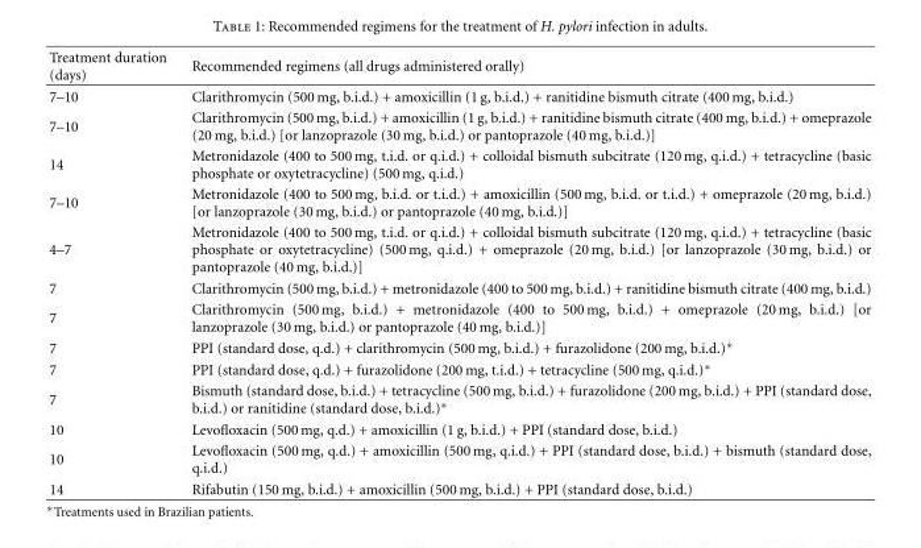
<table><thead><tr><td>Treatment duration (days)</td><td>Recommended regimens (all drugs administered orally)</td></tr></thead><tbody><tr><td>7–10</td><td>Clarithromycin (500 mg, b.i.d.) + amoxicillin (1 g, b.i.d.) + ranitidine bismuth citrate (400 mg, b.i.d.)</td></tr><tr><td>7–10</td><td>Clarithromycin (500 mg, b.i.d.) + amoxicillin (1 g, b.i.d.) + ranitidine bismuth citrate (400 mg, b.i.d.) + omeprazole (20 mg, b.i.d.) [or lanzoprazole (30 mg, b.i.d.) or pantoprazole (40 mg, b.i.d.)]</td></tr><tr><td>14</td><td>Metronidazole (400 to 500 mg, t.i.d. or q.i.d.) + colloidal bismuth subcitrate (120 mg, q.i.d.) + tetracycline (basic phosphate or oxytetracycline) (500 mg, q.i.d.)</td></tr><tr><td>7–10</td><td>Metronidazole (400 to 500 mg, b.i.d. or t.i.d.) + amoxicillin (500 mg, b.i.d. or t.i.d.) + omeprazole (20 mg, b.i.d.) [or lanzoprazole (30 mg, b.i.d.) or pantoprazole (40 mg, b.i.d.)]</td></tr><tr><td>4–7</td><td>Metronidazole (400 to 500 mg, t.i.d. or q.i.d.) + colloidal bismuth subcitrate (120 mg, q.i.d.) + tetracycline (basic phosphate or oxytetracycline) (500 mg, q.i.d.) + omeprazole (20 mg, b.i.d.) [or lanzoprazole (30 mg, b.i.d.) or pantoprazole (40 mg, b.i.d.)]</td></tr><tr><td>7</td><td>Clarithromycin (500 mg, b.i.d.) + metronidazole (400 to 500 mg, b.i.d.) + ranitidine bismuth citrate (400 mg, b.i.d.)</td></tr><tr><td>7</td><td>Clarithromycin (500 mg, b.i.d.) + metronidazole (400 to 500 mg, b.i.d.) + omeprazole (20 mg, b.i.d.) [or lanzoprazole (30 mg, b.i.d.) or pantoprazole (40 mg, b.i.d.)]</td></tr><tr><td>7</td><td>PPI (standard dose, q.d.) + clarithromycin (500 mg, b.i.d.) + furazolidone (200 mg, b.i.d.)∗</td></tr><tr><td>7</td><td>PPI (standard dose, q.d.) + furazolidone (200 mg, t.i.d.) + tetracycline (500 mg, q.i.d.)∗</td></tr><tr><td>7</td><td>Bismuth (standard dose, b.i.d.) + tetracycline (500 mg, b.i.d.) + furazolidone (200 mg, b.i.d.) + PPI (standard dose, b.i.d.) or ranitidine (standard dose, b.i.d.)∗</td></tr><tr><td>10</td><td>Levofloxacin (500 mg, q.d.) + amoxicillin (1 g, b.i.d.) + PPI (standard dose, b.i.d.)</td></tr><tr><td>10</td><td>Levofloxacin (500 mg, q.d.) + amoxicillin (500 mg, q.i.d.) + PPI (standard dose, b.i.d.) + bismuth (standard dose, q.i.d.)</td></tr><tr><td>14</td><td>Rifabutin (150 mg, b.i.d.) + amoxicillin (500 mg, b.i.d.) + PPI (standard dose, b.i.d.)</td></tr></tbody></table>